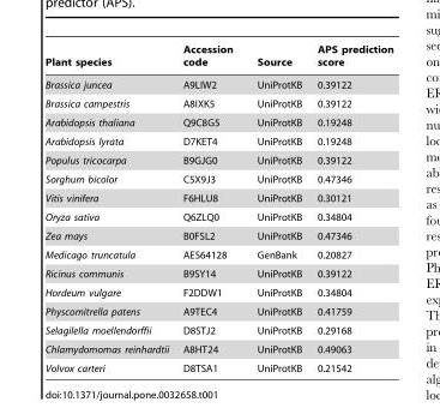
<table><thead><tr><td>Plant species</td><td>Accession code</td><td>Source</td><td>APS prediction score</td></tr></thead><tbody><tr><td>Brassica juncea</td><td>A9LIW2</td><td>UniProtKB</td><td>0.39122</td></tr><tr><td>Brassica campestris</td><td>A8IXK5</td><td>UniProtKB</td><td>0.39122</td></tr><tr><td>Arabidopsis thaliana</td><td>Q9C8G5</td><td>UniProtKB</td><td>0.19248</td></tr><tr><td>Arabidopsis lyrata</td><td>D7KET4</td><td>UniProtKB</td><td>0.19248</td></tr><tr><td>Populus tricocarpa</td><td>B9GJG0</td><td>UniProtKB</td><td>0.39122</td></tr><tr><td>Sorghum bicolor</td><td>C5X9J3</td><td>UniProtKB</td><td>0.47346</td></tr><tr><td>Vitis vinifera</td><td>F6HLU8</td><td>UniProtKB</td><td>0.30121</td></tr><tr><td>Oryza sativa</td><td>Q6ZLQ0</td><td>UniProtKB</td><td>0.34804</td></tr><tr><td>Zea mays</td><td>B0FSL2</td><td>UniProtKB</td><td>0.47346</td></tr><tr><td>Medicago truncatula</td><td>AES64128</td><td>GenBank</td><td>0.20827</td></tr><tr><td>Ricinus communis</td><td>B9SY14</td><td>UniProtKB</td><td>0.39122</td></tr><tr><td>Hordeum vulgare</td><td>F2DDW1</td><td>UniProtKB</td><td>0.34804</td></tr><tr><td>Physcomitrella patens</td><td>A9TEC4</td><td>UniProtKB</td><td>0.41759</td></tr><tr><td>Selagilella moellendorffii</td><td>D8STJ2</td><td>UniProtKB</td><td>0.29168</td></tr><tr><td>Chlamydomomas reinhardtii</td><td>A8HT24</td><td>UniProtKB</td><td>0.49063</td></tr><tr><td>Volvox carteri</td><td>D8TSA1</td><td>UniProtKB</td><td>0.21542</td></tr></tbody></table>